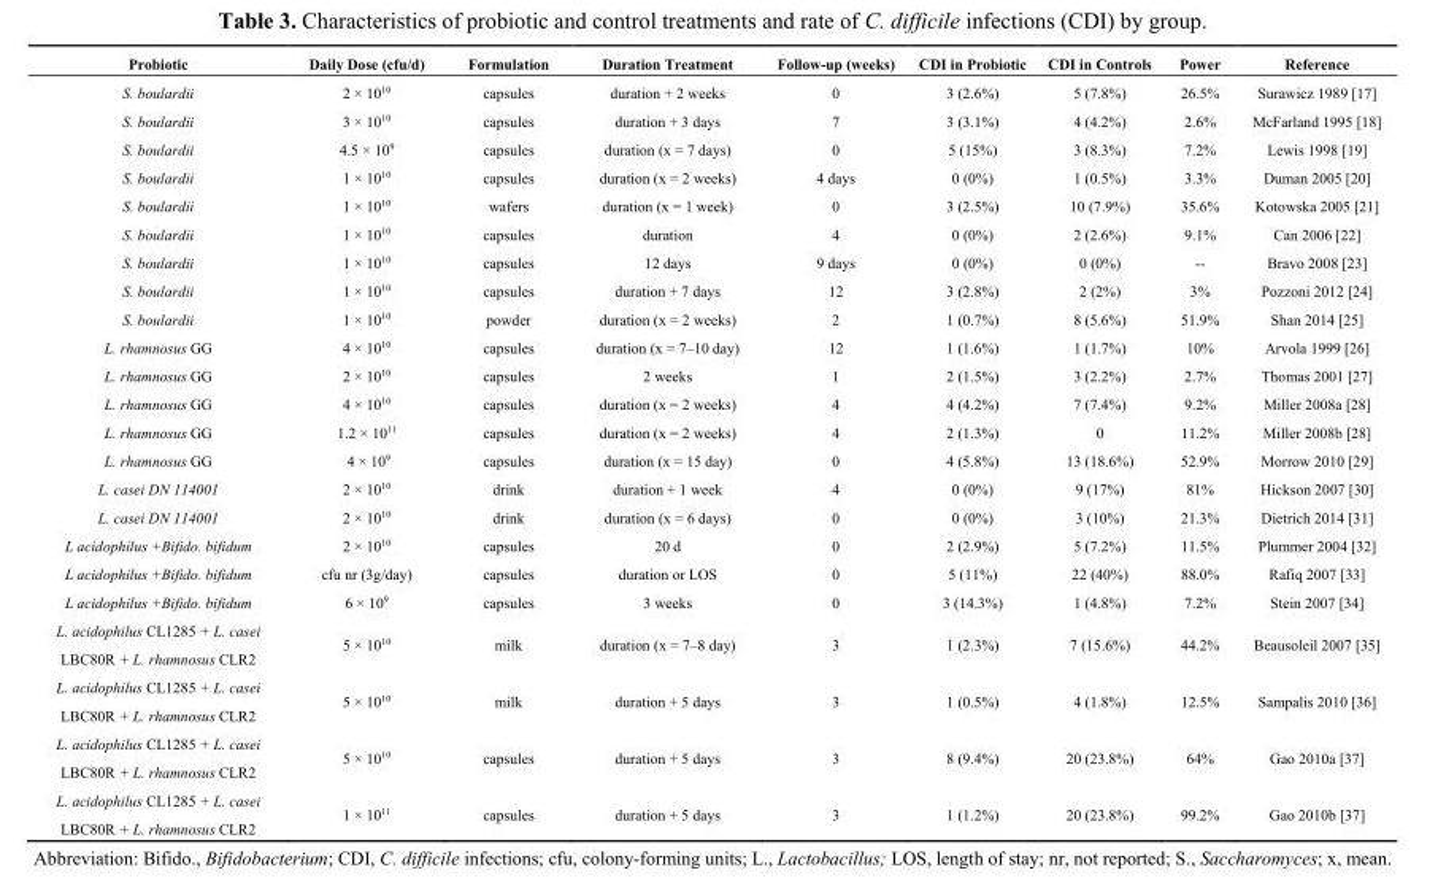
<table><thead><tr><td>Probiotic</td><td>Daily Dose (cfu/d)</td><td>Formulation</td><td>Duration Treatment</td><td>Follow-up (weeks)</td><td>CDI in Probiotic</td><td>CDI in Controls</td><td>Power</td><td>Reference</td></tr></thead><tbody><tr><td>S. boulardii</td><td>2 × 10<sup>10</sup></td><td>capsules</td><td>duration + 2 weeks</td><td>0</td><td>3 (2.6%)</td><td>5 (7.8%)</td><td>26.5%</td><td>Surawicz 1989 [17]</td></tr><tr><td>S. boulardii</td><td>3 × 10<sup>10</sup></td><td>capsules</td><td>duration + 3 days</td><td>7</td><td>3 (3.1%)</td><td>4 (4.2%)</td><td>2.6%</td><td>McFarland 1995 [18]</td></tr><tr><td>S. boulardii</td><td>4.5 × 10<sup>9</sup></td><td>capsules</td><td>duration (x = 7 days)</td><td>0</td><td>5 (15%)</td><td>3 (8.3%)</td><td>7.2%</td><td>Lewis 1998 [19]</td></tr><tr><td>S. boulardii</td><td>1 × 10<sup>10</sup></td><td>capsules</td><td>duration (x = 2 weeks)</td><td>4 days</td><td>0 (0%)</td><td>1 (0.5%)</td><td>3.3%</td><td>Duman 2005 [20]</td></tr><tr><td>S. boulardii</td><td>1 × 10<sup>10</sup></td><td>wafers</td><td>duration (x = 1 week)</td><td>0</td><td>3 (2.5%)</td><td>10 (7.9%)</td><td>35.6%</td><td>Kotowska 2005 [21]</td></tr><tr><td>S. boulardii</td><td>1 × 10<sup>10</sup></td><td>capsules</td><td>duration</td><td>4</td><td>0 (0%)</td><td>2 (2.6%)</td><td>9.1%</td><td>Can 2006 [22]</td></tr><tr><td>S. boulardii</td><td>1 × 10<sup>10</sup></td><td>capsules</td><td>12 days</td><td>9 days</td><td>0 (0%)</td><td>0 (0%)</td><td>--</td><td>Bravo 2008 [23]</td></tr><tr><td>S. boulardii</td><td>1 × 10<sup>10</sup></td><td>capsules</td><td>duration + 7 days</td><td>12</td><td>3 (2.8%)</td><td>2 (2%)</td><td>3%</td><td>Pozzoni 2012 [24]</td></tr><tr><td>S. boulardii</td><td>1 × 10<sup>10</sup></td><td>powder</td><td>duration (x = 2 weeks)</td><td>2</td><td>1 (0.7%)</td><td>8 (5.6%)</td><td>51.9%</td><td>Shan 2014 [25]</td></tr><tr><td>L. rhamnosus GG</td><td>4 × 10<sup>10</sup></td><td>capsules</td><td>duration (x = 7–10 day)</td><td>12</td><td>1 (1.6%)</td><td>1 (1.7%)</td><td>10%</td><td>Arvola 1999 [26]</td></tr><tr><td>L. rhamnosus GG</td><td>2 × 10<sup>10</sup></td><td>capsules</td><td>2 weeks</td><td>1</td><td>2 (1.5%)</td><td>3 (2.2%)</td><td>2.7%</td><td>Thomas 2001 [27]</td></tr><tr><td>L. rhamnosus GG</td><td>4 × 10<sup>10</sup></td><td>capsules</td><td>duration (x = 2 weeks)</td><td>4</td><td>4 (4.2%)</td><td>7 (7.4%)</td><td>9.2%</td><td>Miller 2008a [28]</td></tr><tr><td>L. rhamnosus GG</td><td>1.2 × 10<sup>11</sup></td><td>capsules</td><td>duration (x = 2 weeks)</td><td>4</td><td>2 (1.3%)</td><td>0</td><td>11.2%</td><td>Miller 2008b [28]</td></tr><tr><td>L. rhamnosus GG</td><td>4 × 10<sup>9</sup></td><td>capsules</td><td>duration (x = 15 day)</td><td>0</td><td>4 (5.8%)</td><td>13 (18.6%)</td><td>52.9%</td><td>Morrow 2010 [29]</td></tr><tr><td>L. casei DN 114001</td><td>2 × 10<sup>10</sup></td><td>drink</td><td>duration + 1 week</td><td>4</td><td>0 (0%)</td><td>9 (17%)</td><td>81%</td><td>Hickson 2007 [30]</td></tr><tr><td>L. casei DN 114001</td><td>2 × 10<sup>10</sup></td><td>drink</td><td>duration (x = 6 days)</td><td>0</td><td>0 (0%)</td><td>3 (10%)</td><td>21.3%</td><td>Dietrich 2014 [31]</td></tr><tr><td>L acidophilus +Bifido. bifidum</td><td>2 × 10<sup>10</sup></td><td>capsules</td><td>20 d</td><td>0</td><td>2 (2.9%)</td><td>5 (7.2%)</td><td>11.5%</td><td>Plummer 2004 [32]</td></tr><tr><td>L acidophilus +Bifido. bifidum</td><td>cfu nr (3g/day)</td><td>capsules</td><td>duration or LOS</td><td>0</td><td>5 (11%)</td><td>22 (40%)</td><td>88.0%</td><td>Rafiq 2007 [33]</td></tr><tr><td>L acidophilus +Bifido. bifidum</td><td>6 × 10<sup>9</sup></td><td>capsules</td><td>3 weeks</td><td>0</td><td>3 (14.3%)</td><td>1 (4.8%)</td><td>7.2%</td><td>Stein 2007 [34]</td></tr><tr><td>L. acidophilus CL1285 + L. casei LBC80R + L. rhamnosus CLR2</td><td>5 × 10<sup>10</sup></td><td>milk</td><td>duration (x = 7–8 day)</td><td>3</td><td>1 (2.3%)</td><td>7 (15.6%)</td><td>44.2%</td><td>Beausoleil 2007 [35]</td></tr><tr><td>L. acidophilus CL1285 + L. casei LBC80R + L. rhamnosus CLR2</td><td>5 × 10<sup>10</sup></td><td>milk</td><td>duration + 5 days</td><td>3</td><td>1 (0.5%)</td><td>4 (1.8%)</td><td>12.5%</td><td>Sampalis 2010 [36]</td></tr><tr><td>L. acidophilus CL1285 + L. casei LBC80R + L. rhamnosus CLR2</td><td>5 × 10<sup>10</sup></td><td>capsules</td><td>duration + 5 days</td><td>3</td><td>8 (9.4%)</td><td>20 (23.8%)</td><td>64%</td><td>Gao 2010a [37]</td></tr><tr><td>L. acidophilus CL1285 + L. casei LBC80R + L. rhamnosus CLR2</td><td>1 × 10<sup>11</sup></td><td>capsules</td><td>duration + 5 days</td><td>3</td><td>1 (1.2%)</td><td>20 (23.8%)</td><td>99.2%</td><td>Gao 2010b [37]</td></tr></tbody></table>